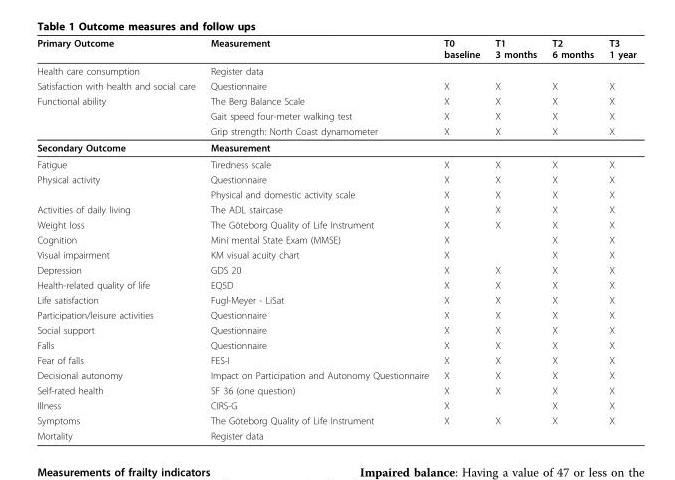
<table><thead><tr><td>Primary Outcome</td><td>Measurement</td><td>T0 baseline</td><td>T1 3 months</td><td>T2 6 months</td><td>T3 1 year</td></tr></thead><tbody><tr><td>Health care consumption</td><td>Register data</td><td></td><td></td><td></td><td></td></tr><tr><td>Satisfaction with health and social care</td><td>Questionnaire</td><td>X</td><td>X</td><td>X</td><td>X</td></tr><tr><td rowspan="3">Functional ability</td><td>The Berg Balance Scale</td><td>X</td><td>X</td><td>X</td><td>X</td></tr><tr><td>Gait speed four-meter walking test</td><td>X</td><td>X</td><td>X</td><td>X</td></tr><tr><td>Grip strength: North Coast dynamometer</td><td>X</td><td>X</td><td>X</td><td>X</td></tr><tr><td>Secondary Outcome</td><td>Measurement</td><td></td><td></td><td></td><td></td></tr><tr><td>Fatigue</td><td>Tiredness scale</td><td>X</td><td>X</td><td>X</td><td>X</td></tr><tr><td rowspan="2">Physical activity</td><td>Questionnaire</td><td>X</td><td>X</td><td>X</td><td>X</td></tr><tr><td>Physical and domestic activity scale</td><td>X</td><td>X</td><td>X</td><td>X</td></tr><tr><td>Activities of daily living</td><td>The ADL staircase</td><td>X</td><td>X</td><td>X</td><td>X</td></tr><tr><td>Weight loss</td><td>The Göteborg Quality of Life Instrument</td><td>X</td><td>X</td><td>X</td><td>X</td></tr><tr><td>Cognition</td><td>Mini mental State Exam (MMSE)</td><td>X</td><td></td><td>X</td><td>X</td></tr><tr><td>Visual impairment</td><td>KM visual acuity chart</td><td>X</td><td></td><td>X</td><td>X</td></tr><tr><td>Depression</td><td>GDS 20</td><td>X</td><td>X</td><td>X</td><td>X</td></tr><tr><td>Health-related quality of life</td><td>EQ5D</td><td>X</td><td>X</td><td>X</td><td>X</td></tr><tr><td>Life satisfaction</td><td>Fugl-Meyer - LiSat</td><td>X</td><td>X</td><td>X</td><td>X</td></tr><tr><td>Participation/leisure activities</td><td>Questionnaire</td><td>X</td><td>X</td><td>X</td><td>X</td></tr><tr><td>Social support</td><td>Questionnaire</td><td>X</td><td>X</td><td>X</td><td>X</td></tr><tr><td>Falls</td><td>Questionnaire</td><td>X</td><td>X</td><td>X</td><td>X</td></tr><tr><td>Fear of falls</td><td>FES-I</td><td>X</td><td>X</td><td>X</td><td>X</td></tr><tr><td>Decisional autonomy</td><td>Impact on Participation and Autonomy Questionnaire</td><td>X</td><td>X</td><td>X</td><td>X</td></tr><tr><td>Self-rated health</td><td>SF 36 (one question)</td><td>X</td><td>X</td><td>X</td><td>X</td></tr><tr><td>Illness</td><td>CIRS-G</td><td>X</td><td></td><td>X</td><td>X</td></tr><tr><td>Symptoms</td><td>The Göteborg Quality of Life Instrument</td><td>X</td><td>X</td><td>X</td><td>X</td></tr><tr><td>Mortality</td><td>Register data</td><td></td><td></td><td></td><td></td></tr></tbody></table>